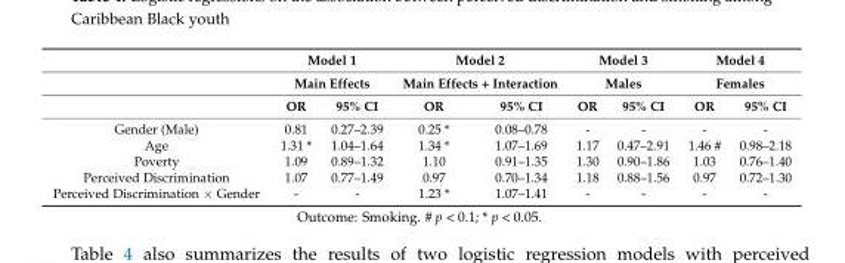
<table><thead><tr><td rowspan="3"></td><td rowspan="2" colspan="2">Model 1 Main Effects</td><td rowspan="2" colspan="2">Model 2 Main Effects + Interaction</td><td rowspan="2" colspan="2">Model 3 Males</td><td rowspan="2" colspan="2">Model 4 Females</td></tr><tr></tr><tr><td>OR</td><td>95% CI</td><td>OR</td><td>95% CI</td><td>OR</td><td>95% CI</td><td>OR</td><td>95% CI</td></tr></thead><tbody><tr><td>Gender (Male)</td><td>0.81</td><td>0.27–2.39</td><td>0.25 *</td><td>0.08–0.78</td><td>-</td><td>-</td><td>-</td><td>-</td></tr><tr><td>Age</td><td>1.31 *</td><td>1.04–1.64</td><td>1.34 *</td><td>1.07–1.69</td><td>1.17</td><td>0.47–2.91</td><td>1.46 #</td><td>0.98–2.18</td></tr><tr><td>Poverty</td><td>1.09</td><td>0.89–1.32</td><td>1.10</td><td>0.91–1.35</td><td>1.30</td><td>0.90–1.86</td><td>1.03</td><td>0.76–1.40</td></tr><tr><td>Perceived Discrimination</td><td>1.07</td><td>0.77–1.49</td><td>0.97</td><td>0.70–1.34</td><td>1.18</td><td>0.88–1.56</td><td>0.97</td><td>0.72–1.30</td></tr><tr><td>Perceived Discrimination × Gender</td><td>-</td><td>-</td><td>1.23 *</td><td>1.07–1.41</td><td>-</td><td>-</td><td>-</td><td>-</td></tr></tbody></table>